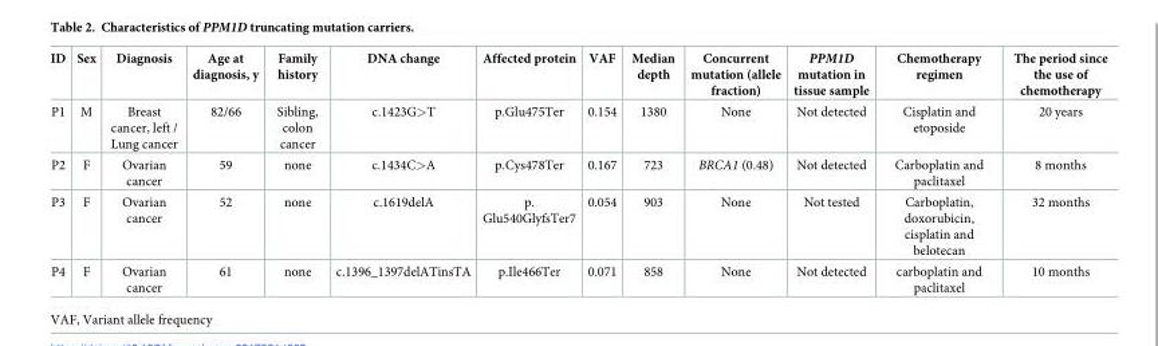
<table><thead><tr><td>ID</td><td>Sex</td><td>Diagnosis</td><td>Age at diagnosis, y</td><td>Family history</td><td>DNA change</td><td>Affected protein</td><td>VAF</td><td>Median depth</td><td>Concurrent mutation (allele fraction)</td><td>PPM1D mutation in tissue sample</td><td>Chemotherapy regimen</td><td>The period since the use of chemotherapy</td></tr></thead><tbody><tr><td>P1</td><td>M</td><td>Breast cancer, left / Lung cancer</td><td>82/66</td><td>Sibling, colon cancer</td><td>c.1423G&gt;T</td><td>p.Glu475Ter</td><td>0.154</td><td>1380</td><td>None</td><td>Not detected</td><td>Cisplatin and etoposide</td><td>20 years</td></tr><tr><td>P2</td><td>F</td><td>Ovarian cancer</td><td>59</td><td>none</td><td>c.1434C&gt;A</td><td>p.Cys478Ter</td><td>0.167</td><td>723</td><td>BRCA1 (0.48)</td><td>Not detected</td><td>Carboplatin and paclitaxel</td><td>8 months</td></tr><tr><td>P3</td><td>F</td><td>Ovarian cancer</td><td>52</td><td>none</td><td>c.1619delA</td><td>p. Glu540GlyfsTer7</td><td>0.054</td><td>903</td><td>None</td><td>Not tested</td><td>Carboplatin, doxorubicin, cisplatin and belotecan</td><td>32 months</td></tr><tr><td>P4</td><td>F</td><td>Ovarian cancer</td><td>61</td><td>none</td><td>c.1396_1397delATinsTA</td><td>p.Ile466Ter</td><td>0.071</td><td>858</td><td>None</td><td>Not detected</td><td>carboplatin and paclitaxel</td><td>10 months</td></tr></tbody></table>